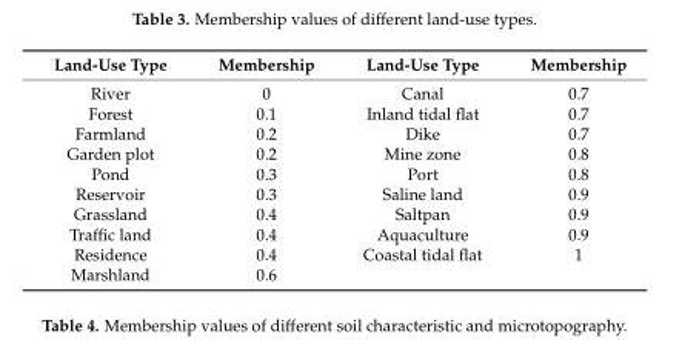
<table><thead><tr><td>Land-Use Type</td><td>Membership</td><td>Land-Use Type</td><td>Membership</td></tr></thead><tbody><tr><td>River</td><td>0</td><td>Canal</td><td>0.7</td></tr><tr><td>Forest</td><td>0.1</td><td>Inland tidal flat</td><td>0.7</td></tr><tr><td>Farmland</td><td>0.2</td><td>Dike</td><td>0.7</td></tr><tr><td>Garden plot</td><td>0.2</td><td>Mine zone</td><td>0.8</td></tr><tr><td>Pond</td><td>0.3</td><td>Port</td><td>0.8</td></tr><tr><td>Reservoir</td><td>0.3</td><td>Saline land</td><td>0.9</td></tr><tr><td>Grassland</td><td>0.4</td><td>Saltpan</td><td>0.9</td></tr><tr><td>Traffic land</td><td>0.4</td><td>Aquaculture</td><td>0.9</td></tr><tr><td>Residence</td><td>0.4</td><td>Coastal tidal flat</td><td>1</td></tr><tr><td>Marshland</td><td>0.6</td><td></td><td></td></tr></tbody></table>